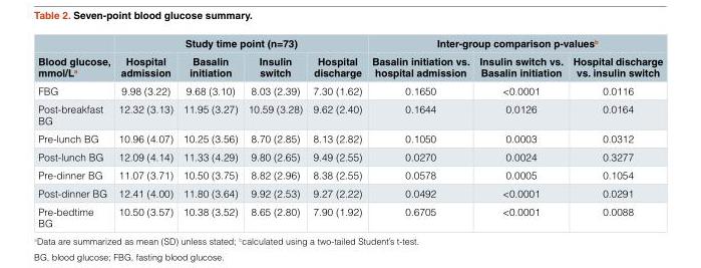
<table><thead><tr><td rowspan="2">Blood glucose, mmol/L<sup>a</sup></td><td colspan="4">Study time point (n=73)</td><td colspan="3">Inter-group comparison p-values<sup>b</sup></td></tr><tr><td>Hospital admission</td><td>Basalin initiation</td><td>Insulin switch</td><td>Hospital discharge</td><td>Basalin initiation vs. hospital admission</td><td>Insulin switch vs. Basalin initiation</td><td>Hospital discharge vs. insulin switch</td></tr></thead><tbody><tr><td>FBG</td><td>9.98 (3.22)</td><td>9.68 (3.10)</td><td>8.03 (2.39)</td><td>7.30 (1.62)</td><td>0.1650</td><td>&lt;0.0001</td><td>0.0116</td></tr><tr><td>Post-breakfast BG</td><td>12.32 (3.13)</td><td>11.95 (3.27)</td><td>10.59 (3.28)</td><td>9.62 (2.40)</td><td>0.1644</td><td>0.0126</td><td>0.0164</td></tr><tr><td>Pre-lunch BG</td><td>10.96 (4.07)</td><td>10.25 (3.56)</td><td>8.70 (2.85)</td><td>8.13 (2.82)</td><td>0.1050</td><td>0.0003</td><td>0.0312</td></tr><tr><td>Post-lunch BG</td><td>12.09 (4.14)</td><td>11.33 (4.29)</td><td>9.80 (2.65)</td><td>9.49 (2.55)</td><td>0.0270</td><td>0.0024</td><td>0.3277</td></tr><tr><td>Pre-dinner BG</td><td>11.07 (3.71)</td><td>10.50 (3.75)</td><td>8.82 (2.96)</td><td>8.38 (2.55)</td><td>0.0578</td><td>0.0005</td><td>0.1054</td></tr><tr><td>Post-dinner BG</td><td>12.41 (4.00)</td><td>11.80 (3.64)</td><td>9.92 (2.53)</td><td>9.27 (2.22)</td><td>0.0492</td><td>&lt;0.0001</td><td>0.0291</td></tr><tr><td>Pre-bedtime BG</td><td>10.50 (3.57)</td><td>10.38 (3.52)</td><td>8.65 (2.80)</td><td>7.90 (1.92)</td><td>0.6705</td><td>&lt;0.0001</td><td>0.0088</td></tr></tbody></table>